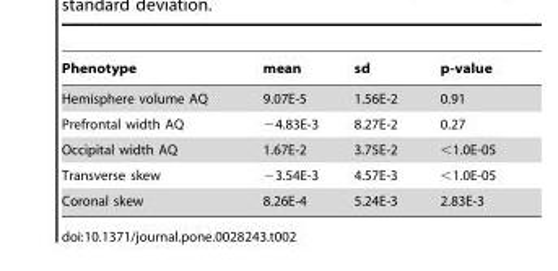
<table><thead><tr><td>Phenotype</td><td>mean</td><td>sd</td><td>p-value</td></tr></thead><tbody><tr><td>Hemisphere volume AQ</td><td>9.07E-5</td><td>1.56E-2</td><td>0.91</td></tr><tr><td>Prefrontal width AQ</td><td>−4.83E-3</td><td>8.27E-2</td><td>0.27</td></tr><tr><td>Occipital width AQ</td><td>1.67E-2</td><td>3.75E-2</td><td>&lt;1.0E-05</td></tr><tr><td>Transverse skew</td><td>−3.54E-3</td><td>4.57E-3</td><td>&lt;1.0E-05</td></tr><tr><td>Coronal skew</td><td>8.26E-4</td><td>5.24E-3</td><td>2.83E-3</td></tr></tbody></table>